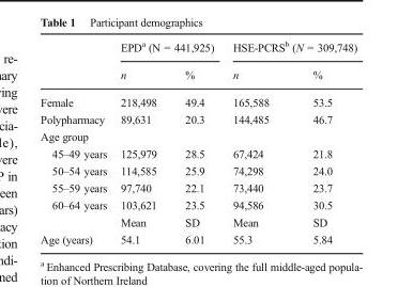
<table><thead><tr><td rowspan="2"></td><td colspan="2">EPD<sup>a</sup> (N = 441,925)</td><td colspan="2">HSE-PCRS<sup>b</sup> (N = 309,748)</td></tr><tr><td>n</td><td>%</td><td>n</td><td>%</td></tr></thead><tbody><tr><td>Female</td><td>218,498</td><td>49.4</td><td>165,588</td><td>53.5</td></tr><tr><td>Polypharmacy</td><td>89,631</td><td>20.3</td><td>144,485</td><td>46.7</td></tr><tr><td colspan="5">Age group</td></tr><tr><td>45–49 years</td><td>125,979</td><td>28.5</td><td>67,424</td><td>21.8</td></tr><tr><td>50–54 years</td><td>114,585</td><td>25.9</td><td>74,298</td><td>24.0</td></tr><tr><td>55–59 years</td><td>97,740</td><td>22.1</td><td>73,440</td><td>23.7</td></tr><tr><td rowspan="2">60–64 years</td><td>103,621</td><td>23.5</td><td>94,586</td><td>30.5</td></tr><tr><td>Mean</td><td>SD</td><td>Mean</td><td>SD</td></tr><tr><td>Age (years)</td><td>54.1</td><td>6.01</td><td>55.3</td><td>5.84</td></tr></tbody></table>